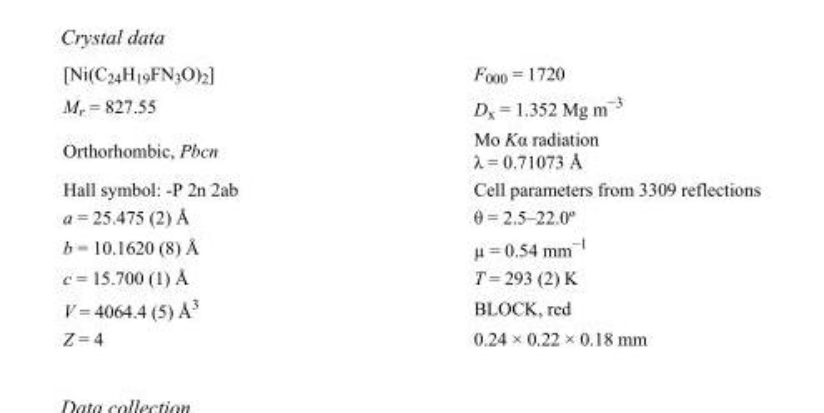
<table><tbody><tr><td>[Ni(C<sub>24</sub>H<sub>19</sub>FN<sub>3</sub>O)<sub>2</sub>]</td><td>F<sub>000</sub> = 1720</td></tr><tr><td>M<sub>r</sub> = 827.55</td><td>D<sub>x</sub> = 1.352 Mg m<sup>−3</sup></td></tr><tr><td>Orthorhombic, Pbcn</td><td>Mo Kα radiation λ = 0.71073 Å</td></tr><tr><td>Hall symbol: -P 2n 2ab</td><td>Cell parameters from 3309 reflections</td></tr><tr><td>a = 25.475 (2) Å</td><td>θ = 2.5–22.0º</td></tr><tr><td>b = 10.1620 (8) Å</td><td>µ = 0.54 mm<sup>−1</sup></td></tr><tr><td>c = 15.700 (1) Å</td><td>T = 293 (2) K</td></tr><tr><td>V = 4064.4 (5) Å<sup>3</sup></td><td>BLOCK, red</td></tr><tr><td>Z = 4</td><td>0.24 × 0.22 × 0.18 mm</td></tr></tbody></table>